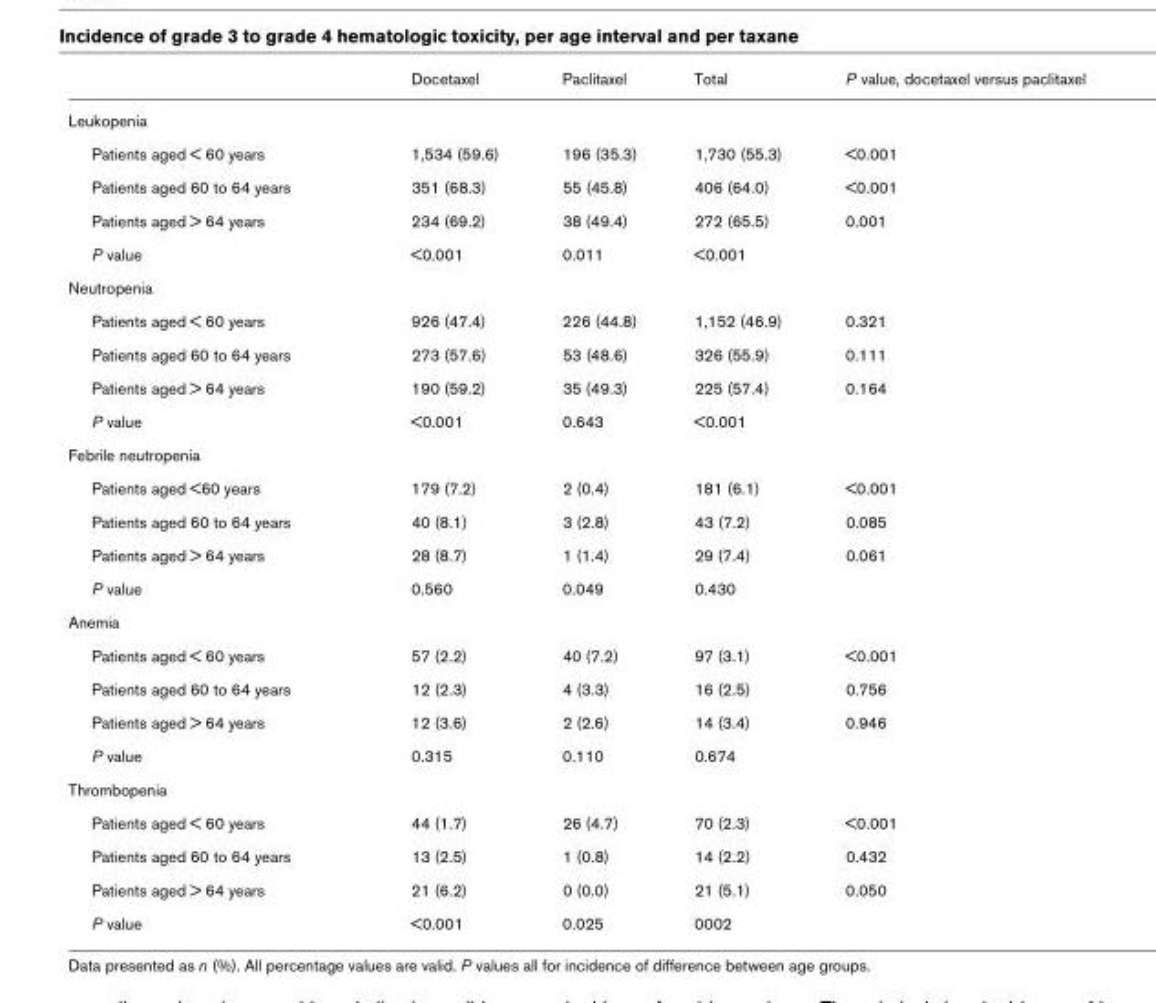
<table><thead><tr><td></td><td>Docetaxel</td><td>Paclitaxel</td><td>Total</td><td>P value, docetaxel versus paclitaxel</td></tr></thead><tbody><tr><td colspan="5">Leukopenia</td></tr><tr><td>Patients aged &lt; 60 years</td><td>1,534 (59.6)</td><td>196 (35.3)</td><td>1,730 (55.3)</td><td>&lt;0.001</td></tr><tr><td>Patients aged 60 to 64 years</td><td>351 (68.3)</td><td>55 (45.8)</td><td>406 (64.0)</td><td>&lt;0.001</td></tr><tr><td>Patients aged &gt; 64 years</td><td>234 (69.2)</td><td>38 (49.4)</td><td>272 (65.5)</td><td>0.001</td></tr><tr><td>P value</td><td>&lt;0.001</td><td>0.011</td><td>&lt;0.001</td><td></td></tr><tr><td colspan="5">Neutropenia</td></tr><tr><td>Patients aged &lt; 60 years</td><td>926 (47.4)</td><td>226 (44.8)</td><td>1,152 (46.9)</td><td>0.321</td></tr><tr><td>Patients aged 60 to 64 years</td><td>273 (57.6)</td><td>53 (48.6)</td><td>326 (55.9)</td><td>0.111</td></tr><tr><td>Patients aged &gt; 64 years</td><td>190 (59.2)</td><td>35 (49.3)</td><td>225 (57.4)</td><td>0.164</td></tr><tr><td>P value</td><td>&lt;0.001</td><td>0.643</td><td>&lt;0.001</td><td></td></tr><tr><td colspan="5">Febrile neutropenia</td></tr><tr><td>Patients aged &lt;60 years</td><td>179 (7.2)</td><td>2 (0.4)</td><td>181 (6.1)</td><td>&lt;0.001</td></tr><tr><td>Patients aged 60 to 64 years</td><td>40 (8.1)</td><td>3 (2.8)</td><td>43 (7.2)</td><td>0.085</td></tr><tr><td>Patients aged &gt; 64 years</td><td>28 (8.7)</td><td>1 (1.4)</td><td>29 (7.4)</td><td>0.061</td></tr><tr><td>P value</td><td>0.560</td><td>0.049</td><td>0.430</td><td></td></tr><tr><td colspan="5">Anemia</td></tr><tr><td>Patients aged &lt; 60 years</td><td>57 (2.2)</td><td>40 (7.2)</td><td>97 (3.1)</td><td>&lt;0.001</td></tr><tr><td>Patients aged 60 to 64 years</td><td>12 (2.3)</td><td>4 (3.3)</td><td>16 (2.5)</td><td>0.756</td></tr><tr><td>Patients aged &gt; 64 years</td><td>12 (3.6)</td><td>2 (2.6)</td><td>14 (3.4)</td><td>0.946</td></tr><tr><td>P value</td><td>0.315</td><td>0.110</td><td>0.674</td><td></td></tr><tr><td colspan="5">Thrombopenia</td></tr><tr><td>Patients aged &lt; 60 years</td><td>44 (1.7)</td><td>26 (4.7)</td><td>70 (2.3)</td><td>&lt;0.001</td></tr><tr><td>Patients aged 60 to 64 years</td><td>13 (2.5)</td><td>1 (0.8)</td><td>14 (2.2)</td><td>0.432</td></tr><tr><td>Patients aged &gt; 64 years</td><td>21 (6.2)</td><td>0 (0.0)</td><td>21 (5.1)</td><td>0.050</td></tr><tr><td>P value</td><td>&lt;0.001</td><td>0.025</td><td>0002</td><td></td></tr></tbody></table>